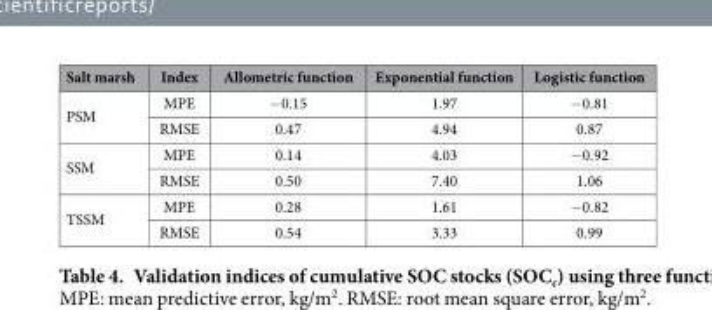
<table><thead><tr><td>Salt marsh</td><td>Index</td><td>Allometric function</td><td>Exponential function</td><td>Logistic function</td></tr></thead><tbody><tr><td rowspan="2">PSM</td><td>MPE</td><td>− 0.15</td><td>1.97</td><td>− 0.81</td></tr><tr><td>RMSE</td><td>0.47</td><td>4.94</td><td>0.87</td></tr><tr><td rowspan="2">SSM</td><td>MPE</td><td>0.14</td><td>4.03</td><td>− 0.92</td></tr><tr><td>RMSE</td><td>0.50</td><td>7.40</td><td>1.06</td></tr><tr><td rowspan="2">TSSM</td><td>MPE</td><td>0.28</td><td>1.61</td><td>− 0.82</td></tr><tr><td>RMSE</td><td>0.54</td><td>3.33</td><td>0.99</td></tr></tbody></table>